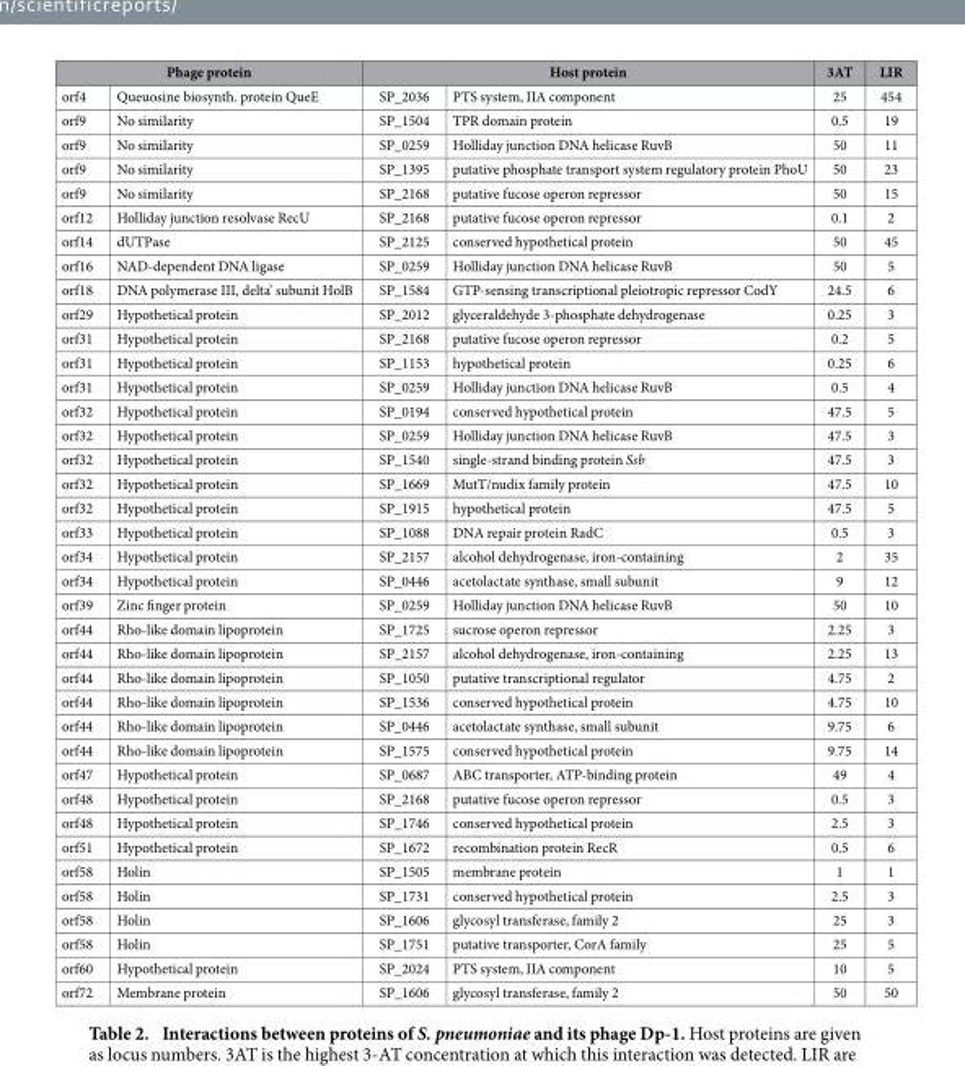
<table><thead><tr><td colspan="2">Phage protein</td><td colspan="2">Host protein</td><td rowspan="2">3AT 25</td><td rowspan="2">LIR 454</td></tr><tr><td>orf4</td><td>Queuosine biosynth. protein QueE</td><td>SP_2036</td><td>PTS system, IIA component</td></tr></thead><tbody><tr><td>orf9</td><td>No similarity</td><td>SP_1504</td><td>TPR domain protein</td><td>0.5</td><td>19</td></tr><tr><td>orf9</td><td>No similarity</td><td>SP_0259</td><td>Holliday junction DNA helicase RuvB</td><td>50</td><td>11</td></tr><tr><td>orf9</td><td>No similarity</td><td>SP_1395</td><td>putative phosphate transport system regulatory protein PhoU</td><td>50</td><td>23</td></tr><tr><td>orf9</td><td>No similarity</td><td>SP_2168</td><td>putative fucose operon repressor</td><td>50</td><td>15</td></tr><tr><td>orf12</td><td>Holliday junction resolvase RecU</td><td>SP_2168</td><td>putative fucose operon repressor</td><td>0.1</td><td>2</td></tr><tr><td>orf14</td><td>dUTPase</td><td>SP_2125</td><td>conserved hypothetical protein</td><td>50</td><td>45</td></tr><tr><td>orf16</td><td>NAD-dependent DNA ligase</td><td>SP_0259</td><td>Holliday junction DNA helicase RuvB</td><td>50</td><td>5</td></tr><tr><td>orf18</td><td>DNA polymerase III, delta’ subunit HolB</td><td>SP_1584</td><td>GTP-sensing transcriptional pleiotropic repressor CodY</td><td>24.5</td><td>6</td></tr><tr><td>orf29</td><td>Hypothetical protein</td><td>SP_2012</td><td>glyceraldehyde 3-phosphate dehydrogenase</td><td>0.25</td><td>3</td></tr><tr><td>orf31</td><td>Hypothetical protein</td><td>SP_2168</td><td>putative fucose operon repressor</td><td>0.2</td><td>5</td></tr><tr><td>orf31</td><td>Hypothetical protein</td><td>SP_1153</td><td>hypothetical protein</td><td>0.25</td><td>6</td></tr><tr><td>orf31</td><td>Hypothetical protein</td><td>SP_0259</td><td>Holliday junction DNA helicase RuvB</td><td>0.5</td><td>4</td></tr><tr><td>orf32</td><td>Hypothetical protein</td><td>SP_0194</td><td>conserved hypothetical protein</td><td>47.5</td><td>5</td></tr><tr><td>orf32</td><td>Hypothetical protein</td><td>SP_0259</td><td>Holliday junction DNA helicase RuvB</td><td>47.5</td><td>3</td></tr><tr><td>orf32</td><td>Hypothetical protein</td><td>SP_1540</td><td>single-strand binding protein Ssb</td><td>47.5</td><td>3</td></tr><tr><td>orf32</td><td>Hypothetical protein</td><td>SP_1669</td><td>MutT/nudix family protein</td><td>47.5</td><td>10</td></tr><tr><td>orf32</td><td>Hypothetical protein</td><td>SP_1915</td><td>hypothetical protein</td><td>47.5</td><td>5</td></tr><tr><td>orf33</td><td>Hypothetical protein</td><td>SP_1088</td><td>DNA repair protein RadC</td><td>0.5</td><td>3</td></tr><tr><td>orf34</td><td>Hypothetical protein</td><td>SP_2157</td><td>alcohol dehydrogenase, iron-containing</td><td>2</td><td>35</td></tr><tr><td>orf34</td><td>Hypothetical protein</td><td>SP_0446</td><td>acetolactate synthase, small subunit</td><td>9</td><td>12</td></tr><tr><td>orf39</td><td>Zinc finger protein</td><td>SP_0259</td><td>Holliday junction DNA helicase RuvB</td><td>50</td><td>10</td></tr><tr><td>orf44</td><td>Rho-like domain lipoprotein</td><td>SP_1725</td><td>sucrose operon repressor</td><td>2.25</td><td>3</td></tr><tr><td>orf44</td><td>Rho-like domain lipoprotein</td><td>SP_2157</td><td>alcohol dehydrogenase, iron-containing</td><td>2.25</td><td>13</td></tr><tr><td>orf44</td><td>Rho-like domain lipoprotein</td><td>SP_1050</td><td>putative transcriptional regulator</td><td>4.75</td><td>2</td></tr><tr><td>orf44</td><td>Rho-like domain lipoprotein</td><td>SP_1536</td><td>conserved hypothetical protein</td><td>4.75</td><td>10</td></tr><tr><td>orf44</td><td>Rho-like domain lipoprotein</td><td>SP_0446</td><td>acetolactate synthase, small subunit</td><td>9.75</td><td>6</td></tr><tr><td>orf44</td><td>Rho-like domain lipoprotein</td><td>SP_1575</td><td>conserved hypothetical protein</td><td>9.75</td><td>14</td></tr><tr><td>orf47</td><td>Hypothetical protein</td><td>SP_0687</td><td>ABC transporter, ATP-binding protein</td><td>49</td><td>4</td></tr><tr><td>orf48</td><td>Hypothetical protein</td><td>SP_2168</td><td>putative fucose operon repressor</td><td>0.5</td><td>3</td></tr><tr><td>orf48</td><td>Hypothetical protein</td><td>SP_1746</td><td>conserved hypothetical protein</td><td>2.5</td><td>3</td></tr><tr><td>orf51</td><td>Hypothetical protein</td><td>SP_1672</td><td>recombination protein RecR</td><td>0.5</td><td>6</td></tr><tr><td>orf58</td><td>Holin</td><td>SP_1505</td><td>membrane protein</td><td>1</td><td>1</td></tr><tr><td>orf58</td><td>Holin</td><td>SP_1731</td><td>conserved hypothetical protein</td><td>2.5</td><td>3</td></tr><tr><td>orf58</td><td>Holin</td><td>SP_1606</td><td>glycosyl transferase, family 2</td><td>25</td><td>3</td></tr><tr><td>orf58</td><td>Holin</td><td>SP_1751</td><td>putative transporter, CorA family</td><td>25</td><td>5</td></tr><tr><td>orf60</td><td>Hypothetical protein</td><td>SP_2024</td><td>PTS system, IIA component</td><td>10</td><td>5</td></tr><tr><td>orf72</td><td>Membrane protein</td><td>SP_1606</td><td>glycosyl transferase, family 2</td><td>50</td><td>50</td></tr></tbody></table>